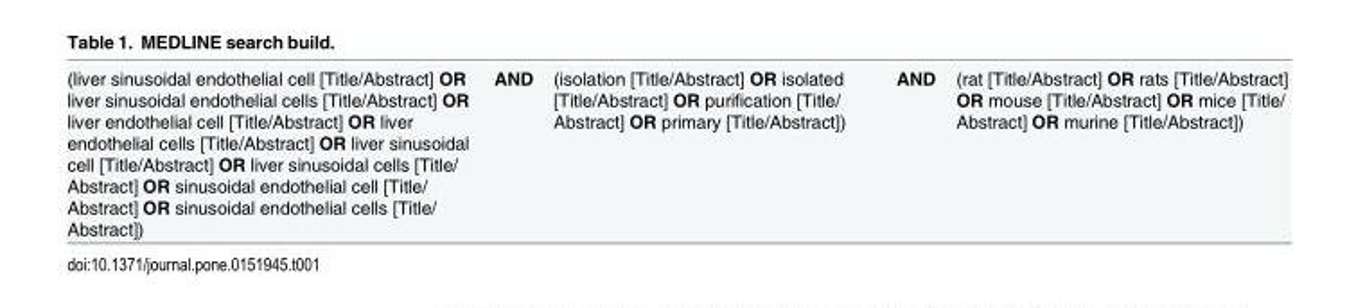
<table><tbody><tr><td>(liver sinusoidal endothelial cell [Title/Abstract] OR liver sinusoidal endothelial cells [Title/Abstract] OR liver endothelial cell [Title/Abstract] OR liver endothelial cells [Title/Abstract] OR liver sinusoidal cell [Title/Abstract] OR liver sinusoidal cells [Title/ Abstract] OR sinusoidal endothelial cell [Title/ Abstract] OR sinusoidal endothelial cells [Title/ Abstract])</td><td>AND</td><td>(isolation [Title/Abstract] OR isolated [Title/Abstract] OR purification [Title/ Abstract] OR primary [Title/Abstract])</td><td>AND</td><td>(rat [Title/Abstract] OR rats [Title/Abstract] OR mouse [Title/Abstract] OR mice [Title/ Abstract] OR murine [Title/Abstract])</td></tr></tbody></table>